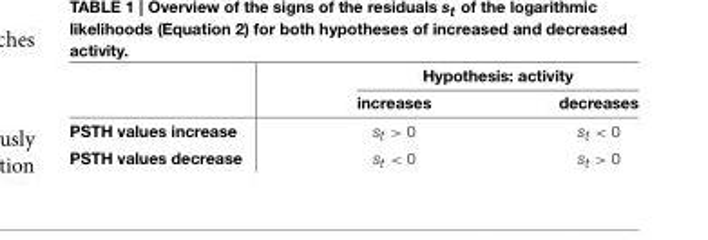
<table><thead><tr><td rowspan="2"></td><td colspan="2">Hypothesis: activity</td></tr><tr><td>increases</td><td>decreases</td></tr></thead><tbody><tr><td>PSTH values increase</td><td>s<sub>t</sub> &gt; 0</td><td>s<sub>t</sub> &lt; 0</td></tr><tr><td>PSTH values decrease</td><td>s<sub>t</sub> &lt; 0</td><td>s<sub>t</sub> &gt; 0</td></tr></tbody></table>